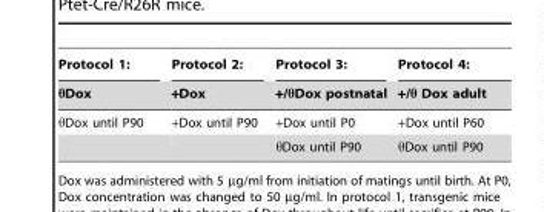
<table><thead><tr><td rowspan="2">Protocol 1: θDox</td><td rowspan="2">Protocol 2: +Dox</td><td rowspan="2">Protocol 3: +/θDox postnatal</td><td rowspan="2">Protocol 4: +/θ Dox adult</td></tr><tr></tr></thead><tbody><tr><td rowspan="2">θDox until P90</td><td>+Dox until P90</td><td>+Dox until P0</td><td>+Dox until P60</td></tr><tr><td></td><td>θDox until P90</td><td>θDox until P90</td></tr></tbody></table>